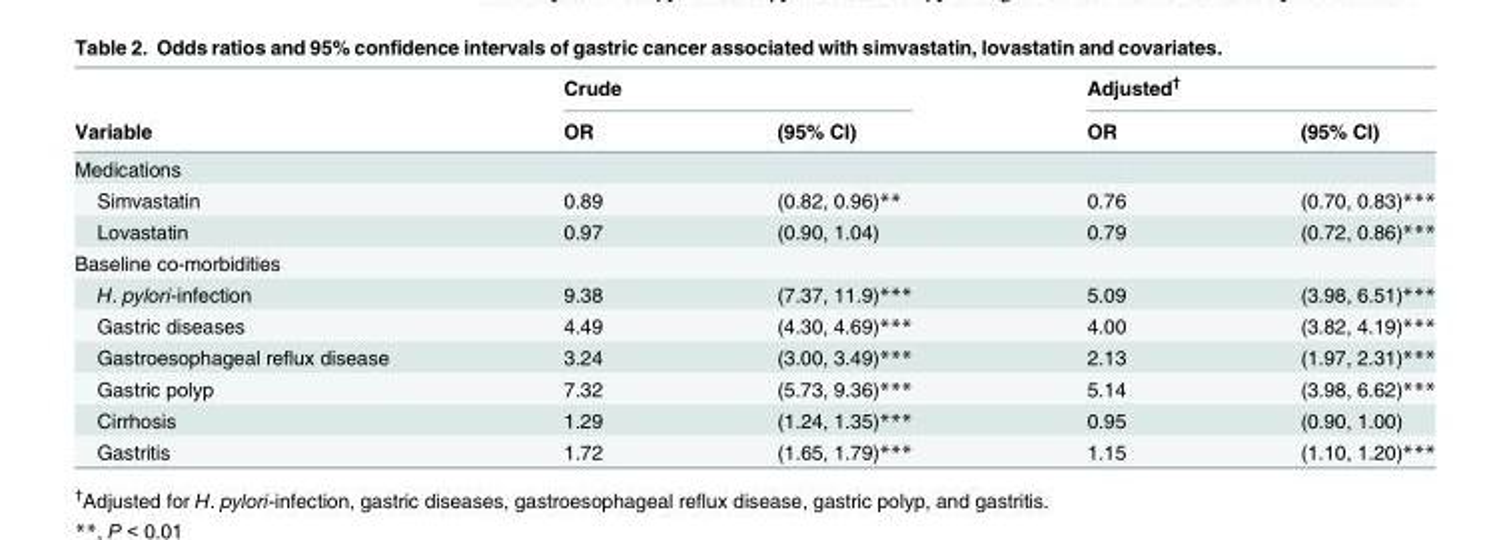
<table><thead><tr><td rowspan="2">Variable</td><td colspan="2">Crude</td><td colspan="2">Adjusted<sup>†</sup></td></tr><tr><td>OR</td><td>(95% CI)</td><td>OR</td><td>(95% CI)</td></tr></thead><tbody><tr><td colspan="5">Medications</td></tr><tr><td>Simvastatin</td><td>0.89</td><td>(0.82, 0.96)**</td><td>0.76</td><td>(0.70, 0.83)***</td></tr><tr><td>Lovastatin</td><td>0.97</td><td>(0.90, 1.04)</td><td>0.79</td><td>(0.72, 0.86)***</td></tr><tr><td colspan="5">Baseline co-morbidities</td></tr><tr><td>H. pylori-infection</td><td>9.38</td><td>(7.37, 11.9)***</td><td>5.09</td><td>(3.98, 6.51)***</td></tr><tr><td>Gastric diseases</td><td>4.49</td><td>(4.30, 4.69)***</td><td>4.00</td><td>(3.82, 4.19)***</td></tr><tr><td>Gastroesophageal reflux disease</td><td>3.24</td><td>(3.00, 3.49)***</td><td>2.13</td><td>(1.97, 2.31)***</td></tr><tr><td>Gastric polyp</td><td>7.32</td><td>(5.73, 9.36)***</td><td>5.14</td><td>(3.98, 6.62)***</td></tr><tr><td>Cirrhosis</td><td>1.29</td><td>(1.24, 1.35)***</td><td>0.95</td><td>(0.90, 1.00)</td></tr><tr><td>Gastritis</td><td>1.72</td><td>(1.65, 1.79)***</td><td>1.15</td><td>(1.10, 1.20)***</td></tr></tbody></table>